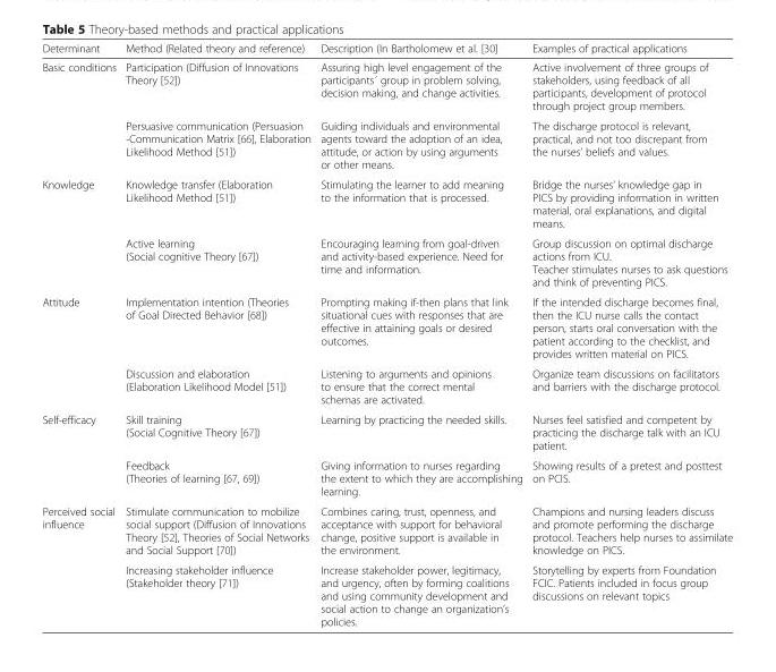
<table><thead><tr><td>Determinant</td><td>Method (Related theory and reference)</td><td>Description (In Bartholomew et al. [30]</td><td>Examples of practical applications</td></tr></thead><tbody><tr><td rowspan="2">Basic conditions</td><td>Participation (Diffusion of Innovations Theory [52])</td><td>Assuring high level engagement of the participants´ group in problem solving, decision making, and change activities.</td><td>Active involvement of three groups of stakeholders, using feedback of all participants, development of protocol through project group members.</td></tr><tr><td>Persuasive communication (Persuasion -Communication Matrix [66], Elaboration Likelihood Method [51])</td><td>Guiding individuals and environmental agents toward the adoption of an idea, attitude, or action by using arguments or other means.</td><td>The discharge protocol is relevant, practical, and not too discrepant from the nurses’ beliefs and values.</td></tr><tr><td rowspan="2">Knowledge</td><td>Knowledge transfer (Elaboration Likelihood Method [51])</td><td>Stimulating the learner to add meaning to the information that is processed.</td><td>Bridge the nurses’ knowledge gap in PICS by providing information in written material, oral explanations, and digital means.</td></tr><tr><td>Active learning (Social cognitive Theory [67])</td><td>Encouraging learning from goal-driven and activity-based experience. Need for time and information.</td><td>Group discussion on optimal discharge actions from ICU. Teacher stimulates nurses to ask questions and think of preventing PICS.</td></tr><tr><td rowspan="2">Attitude</td><td>Implementation intention (Theories of Goal Directed Behavior [68])</td><td>Prompting making if-then plans that link situational cues with responses that are effective in attaining goals or desired outcomes.</td><td>If the intended discharge becomes final, then the ICU nurse calls the contact person, starts oral conversation with the patient according to the checklist, and provides written material on PICS.</td></tr><tr><td>Discussion and elaboration (Elaboration Likelihood Model [51])</td><td>Listening to arguments and opinions to ensure that the correct mental schemas are activated.</td><td>Organize team discussions on facilitators and barriers with the discharge protocol.</td></tr><tr><td rowspan="2">Self-efficacy</td><td>Skill training (Social Cognitive Theory [67])</td><td>Learning by practicing the needed skills.</td><td>Nurses feel satisfied and competent by practicing the discharge talk with an ICU patient.</td></tr><tr><td>Feedback (Theories of learning [67, 69])</td><td>Giving information to nurses regarding the extent to which they are accomplishing learning.</td><td>Showing results of a pretest and posttest on PCIS.</td></tr><tr><td rowspan="2">Perceived social influence</td><td>Stimulate communication to mobilize social support (Diffusion of Innovations Theory [52], Theories of Social Networks and Social Support [70])</td><td>Combines caring, trust, openness, and acceptance with support for behavioral change, positive support is available in the environment.</td><td>Champions and nursing leaders discuss and promote performing the discharge protocol. Teachers help nurses to assimilate knowledge on PICS.</td></tr><tr><td>Increasing stakeholder influence (Stakeholder theory [71])</td><td>Increase stakeholder power, legitimacy, and urgency, often by forming coalitions and using community development and social action to change an organization’s policies.</td><td>Storytelling by experts from Foundation FCIC. Patients included in focus group discussions on relevant topics</td></tr></tbody></table>